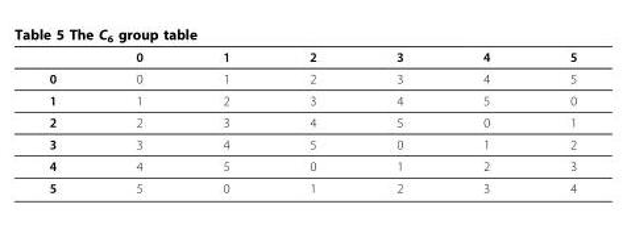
<table><thead><tr><td></td><td>0</td><td>1</td><td>2</td><td>3</td><td>4</td><td>5</td></tr></thead><tbody><tr><td>0</td><td>0</td><td>1</td><td>2</td><td>3</td><td>4</td><td>5</td></tr><tr><td>1</td><td>1</td><td>2</td><td>3</td><td>4</td><td>5</td><td>0</td></tr><tr><td>2</td><td>2</td><td>3</td><td>4</td><td>5</td><td>0</td><td>1</td></tr><tr><td>3</td><td>3</td><td>4</td><td>5</td><td>0</td><td>1</td><td>2</td></tr><tr><td>4</td><td>4</td><td>5</td><td>0</td><td>1</td><td>2</td><td>3</td></tr><tr><td>5</td><td>5</td><td>0</td><td>1</td><td>2</td><td>3</td><td>4</td></tr></tbody></table>